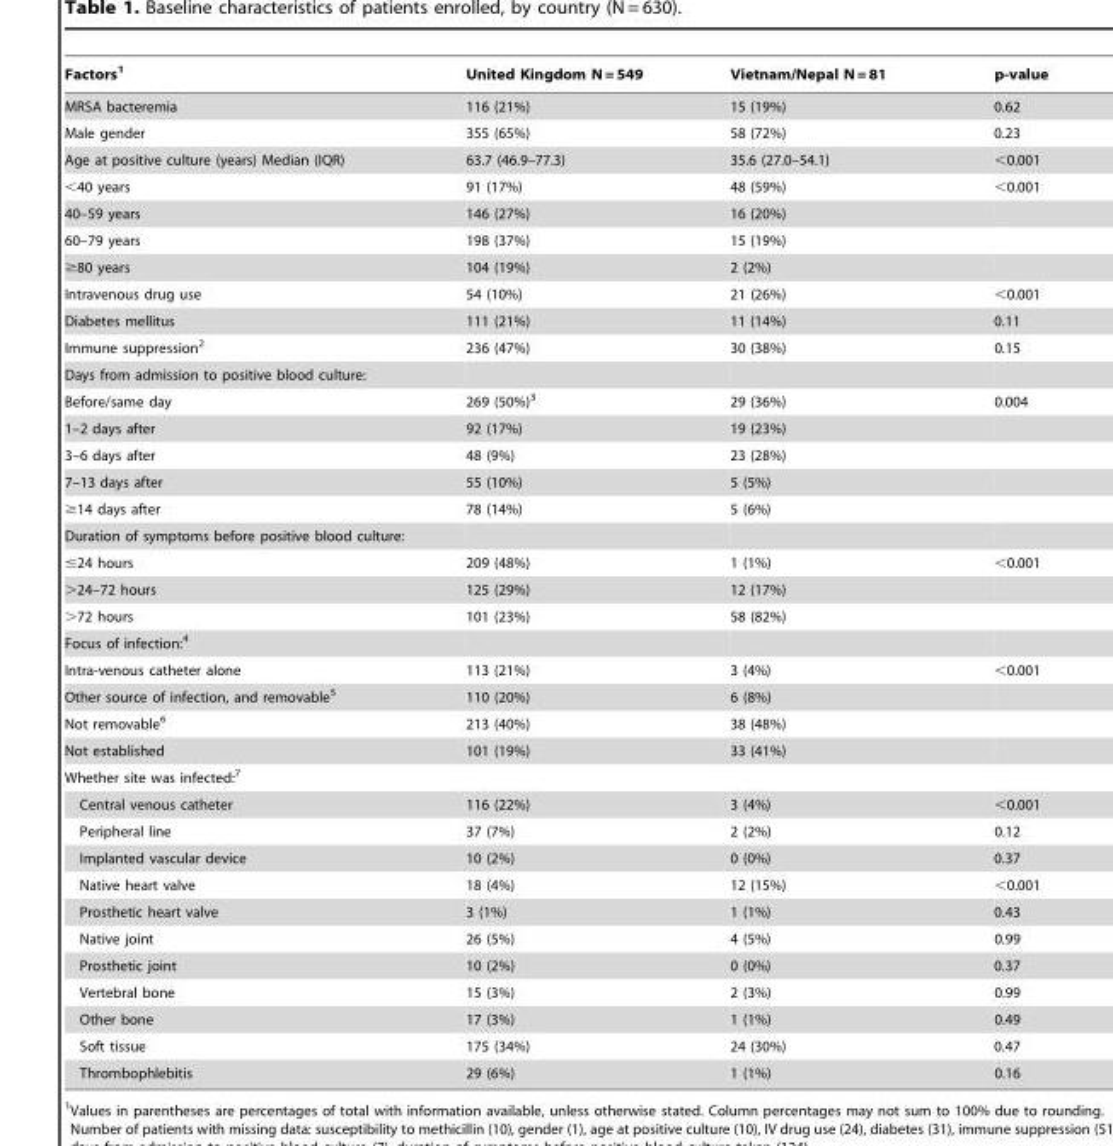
<table><thead><tr><td>Factors<sup>1</sup></td><td>United Kingdom N = 549</td><td>Vietnam/Nepal N = 81</td><td>p-value</td></tr></thead><tbody><tr><td>MRSA bacteremia</td><td>116 (21%)</td><td>15 (19%)</td><td>0.62</td></tr><tr><td>Male gender</td><td>355 (65%)</td><td>58 (72%)</td><td>0.23</td></tr><tr><td>Age at positive culture (years) Median (IQR)</td><td>63.7 (46.9–77.3)</td><td>35.6 (27.0–54.1)</td><td>&lt;0.001</td></tr><tr><td>&lt;40 years</td><td>91 (17%)</td><td>48 (59%)</td><td>&lt;0.001</td></tr><tr><td>40–59 years</td><td>146 (27%)</td><td>16 (20%)</td><td></td></tr><tr><td>60–79 years</td><td>198 (37%)</td><td>15 (19%)</td><td></td></tr><tr><td>≥80 years</td><td>104 (19%)</td><td>2 (2%)</td><td></td></tr><tr><td>Intravenous drug use</td><td>54 (10%)</td><td>21 (26%)</td><td>&lt;0.001</td></tr><tr><td>Diabetes mellitus</td><td>111 (21%)</td><td>11 (14%)</td><td>0.11</td></tr><tr><td>Immune suppression<sup>2</sup></td><td>236 (47%)</td><td>30 (38%)</td><td>0.15</td></tr><tr><td colspan="4">Days from admission to positive blood culture:</td></tr><tr><td>Before/same day</td><td>269 (50%)<sup>3</sup></td><td>29 (36%)</td><td>0.004</td></tr><tr><td>1–2 days after</td><td>92 (17%)</td><td>19 (23%)</td><td></td></tr><tr><td>3–6 days after</td><td>48 (9%)</td><td>23 (28%)</td><td></td></tr><tr><td>7–13 days after</td><td>55 (10%)</td><td>5 (5%)</td><td></td></tr><tr><td>≥14 days after</td><td>78 (14%)</td><td>5 (6%)</td><td></td></tr><tr><td colspan="4">Duration of symptoms before positive blood culture:</td></tr><tr><td>≤24 hours</td><td>209 (48%)</td><td>1 (1%)</td><td>&lt;0.001</td></tr><tr><td>&gt;24–72 hours</td><td>125 (29%)</td><td>12 (17%)</td><td></td></tr><tr><td>&gt;72 hours</td><td>101 (23%)</td><td>58 (82%)</td><td></td></tr><tr><td colspan="4">Focus of infection:<sup>4</sup></td></tr><tr><td>Intra-venous catheter alone</td><td>113 (21%)</td><td>3 (4%)</td><td>&lt;0.001</td></tr><tr><td>Other source of infection, and removable<sup>5</sup></td><td>110 (20%)</td><td>6 (8%)</td><td></td></tr><tr><td>Not removable<sup>6</sup></td><td>213 (40%)</td><td>38 (48%)</td><td></td></tr><tr><td>Not established</td><td>101 (19%)</td><td>33 (41%)</td><td></td></tr><tr><td colspan="4">Whether site was infected:<sup>7</sup></td></tr><tr><td>Central venous catheter</td><td>116 (22%)</td><td>3 (4%)</td><td>&lt;0.001</td></tr><tr><td>Peripheral line</td><td>37 (7%)</td><td>2 (2%)</td><td>0.12</td></tr><tr><td>Implanted vascular device</td><td>10 (2%)</td><td>0 (0%)</td><td>0.37</td></tr><tr><td>Native heart valve</td><td>18 (4%)</td><td>12 (15%)</td><td>&lt;0.001</td></tr><tr><td>Prosthetic heart valve</td><td>3 (1%)</td><td>1 (1%)</td><td>0.43</td></tr><tr><td>Native joint</td><td>26 (5%)</td><td>4 (5%)</td><td>0.99</td></tr><tr><td>Prosthetic joint</td><td>10 (2%)</td><td>0 (0%)</td><td>0.37</td></tr><tr><td>Vertebral bone</td><td>15 (3%)</td><td>2 (3%)</td><td>0.99</td></tr><tr><td>Other bone</td><td>17 (3%)</td><td>1 (1%)</td><td>0.49</td></tr><tr><td>Soft tissue</td><td>175 (34%)</td><td>24 (30%)</td><td>0.47</td></tr><tr><td>Thrombophlebitis</td><td>29 (6%)</td><td>1 (1%)</td><td>0.16</td></tr></tbody></table>